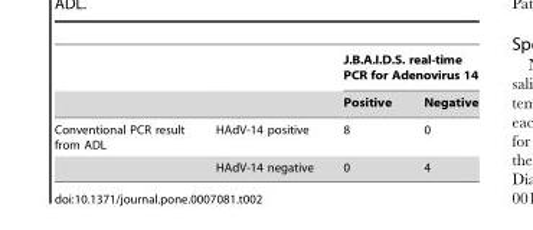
<table><thead><tr><td rowspan="2"></td><td rowspan="2"></td><td colspan="2">J.B.A.I.D.S. real-time PCR for Adenovirus 14</td></tr><tr><td>Positive</td><td>Negative</td></tr></thead><tbody><tr><td rowspan="2">Conventional PCR result from ADL</td><td>HAdV-14 positive</td><td>8</td><td>0</td></tr><tr><td>HAdV-14 negative</td><td>0</td><td>4</td></tr></tbody></table>